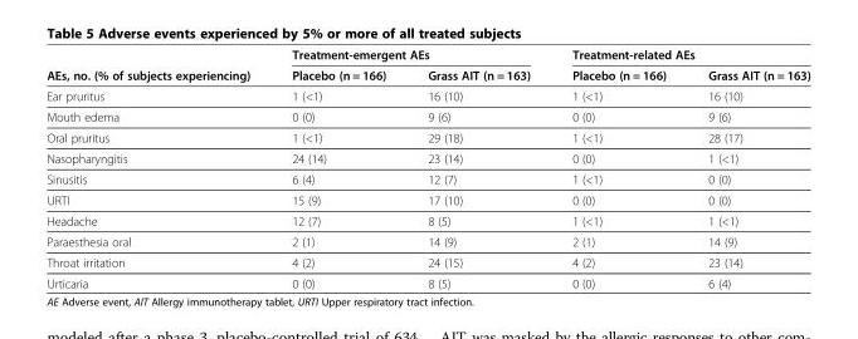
<table><thead><tr><td rowspan="2">AEs, no. (% of subjects experiencing)</td><td colspan="2">Treatment-emergent AEs</td><td colspan="2">Treatment-related AEs</td></tr><tr><td>Placebo (n = 166)</td><td>Grass AIT (n = 163)</td><td>Placebo (n = 166)</td><td>Grass AIT (n = 163)</td></tr></thead><tbody><tr><td>Ear pruritus</td><td>1 (&lt;1)</td><td>16 (10)</td><td>1 (&lt;1)</td><td>16 (10)</td></tr><tr><td>Mouth edema</td><td>0 (0)</td><td>9 (6)</td><td>0 (0)</td><td>9 (6)</td></tr><tr><td>Oral pruritus</td><td>1 (&lt;1)</td><td>29 (18)</td><td>1 (&lt;1)</td><td>28 (17)</td></tr><tr><td>Nasopharyngitis</td><td>24 (14)</td><td>23 (14)</td><td>0 (0)</td><td>1 (&lt;1)</td></tr><tr><td>Sinusitis</td><td>6 (4)</td><td>12 (7)</td><td>1 (&lt;1)</td><td>0 (0)</td></tr><tr><td>URTI</td><td>15 (9)</td><td>17 (10)</td><td>0 (0)</td><td>0 (0)</td></tr><tr><td>Headache</td><td>12 (7)</td><td>8 (5)</td><td>1 (&lt;1)</td><td>1 (&lt;1)</td></tr><tr><td>Paraesthesia oral</td><td>2 (1)</td><td>14 (9)</td><td>2 (1)</td><td>14 (9)</td></tr><tr><td>Throat irritation</td><td>4 (2)</td><td>24 (15)</td><td>4 (2)</td><td>23 (14)</td></tr><tr><td>Urticaria</td><td>0 (0)</td><td>8 (5)</td><td>0 (0)</td><td>6 (4)</td></tr></tbody></table>